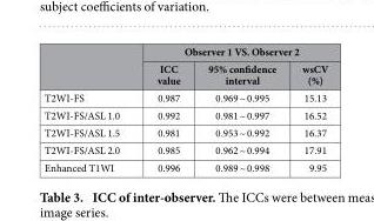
<table><thead><tr><td rowspan="2"></td><td colspan="3">Observer 1 VS. Observer 2</td></tr><tr><td>ICC value</td><td>95% confidence interval</td><td>wsCV (%)</td></tr></thead><tbody><tr><td>T2WI-FS</td><td>0.987</td><td>0.969 ~ 0.995</td><td>15.13</td></tr><tr><td>T2WI-FS/ASL 1.0</td><td>0.992</td><td>0.981 ~ 0.997</td><td>16.52</td></tr><tr><td>T2WI-FS/ASL 1.5</td><td>0.981</td><td>0.953 ~ 0.992</td><td>16.37</td></tr><tr><td>T2WI-FS/ASL 2.0</td><td>0.985</td><td>0.962 ~ 0.994</td><td>17.91</td></tr><tr><td>Enhanced T1WI</td><td>0.996</td><td>0.989 ~ 0.998</td><td>9.95</td></tr></tbody></table>